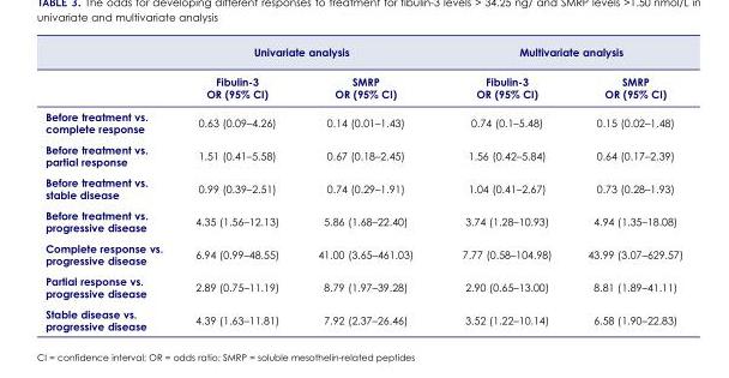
<table><thead><tr><td rowspan="2"></td><td colspan="2">Univariate analysis</td><td colspan="2">Multivariate analysis</td></tr><tr><td>Fibulin-3 OR (95% CI)</td><td>SMRP OR (95% CI)</td><td>Fibulin-3 OR (95% CI)</td><td>SMRP OR (95% CI)</td></tr></thead><tbody><tr><td>Before treatment vs. complete response</td><td>0.63 (0.09–4.26)</td><td>0.14 (0.01–1.43)</td><td>0.74 (0.1–5.48)</td><td>0.15 (0.02–1.48)</td></tr><tr><td>Before treatment vs. partial response</td><td>1.51 (0.41–5.58)</td><td>0.67 (0.18–2.45)</td><td>1.56 (0.42–5.84)</td><td>0.64 (0.17–2.39)</td></tr><tr><td>Before treatment vs. stable disease</td><td>0.99 (0.39–2.51)</td><td>0.74 (0.29–1.91)</td><td>1.04 (0.41–2.67)</td><td>0.73 (0.28–1.93)</td></tr><tr><td>Before treatment vs. progressive disease</td><td>4.35 (1.56–12.13)</td><td>5.86 (1.68–22.40)</td><td>3.74 (1.28–10.93)</td><td>4.94 (1.35–18.08)</td></tr><tr><td>Complete response vs. progressive disease</td><td>6.94 (0.99–48.55)</td><td>41.00 (3.65–461.03)</td><td>7.77 (0.58–104.98)</td><td>43.99 (3.07–629.57)</td></tr><tr><td>Partial response vs. progressive disease</td><td>2.89 (0.75–11.19)</td><td>8.79 (1.97–39.28)</td><td>2.90 (0.65–13.00)</td><td>8.81 (1.89–41.11)</td></tr><tr><td>Stable disease vs. progressive disease</td><td>4.39 (1.63–11.81)</td><td>7.92 (2.37–26.46)</td><td>3.52 (1.22–10.14)</td><td>6.58 (1.90–22.83)</td></tr></tbody></table>